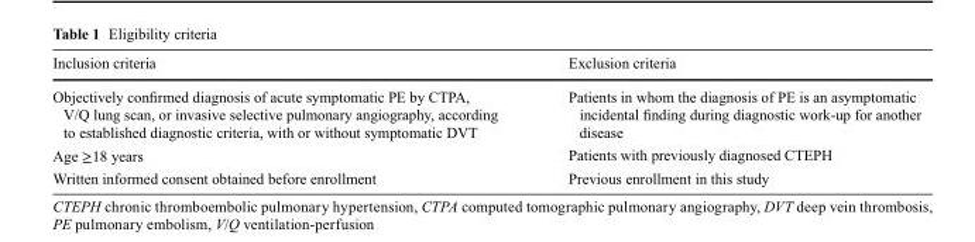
<table><thead><tr><td>Inclusion criteria</td><td>Exclusion criteria</td></tr></thead><tbody><tr><td>Objectively confirmed diagnosis of acute symptomatic PE by CTPA, V/Q lung scan, or invasive selective pulmonary angiography, according to established diagnostic criteria, with or without symptomatic DVT</td><td>Patients in whom the diagnosis of PE is an asymptomatic incidental finding during diagnostic work-up for another disease</td></tr><tr><td>Age ≥18 years</td><td>Patients with previously diagnosed CTEPH</td></tr><tr><td>Written informed consent obtained before enrollment</td><td>Previous enrollment in this study</td></tr></tbody></table>